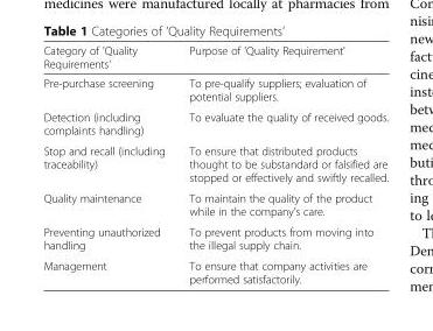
<table><thead><tr><td>Category of &#x27;Quality Requirements&#x27;</td><td>Purpose of &#x27;Quality Requirement&#x27;</td></tr></thead><tbody><tr><td>Pre-purchase screening</td><td>To pre-qualify suppliers; evaluation of potential suppliers.</td></tr><tr><td>Detection (including complaints handling)</td><td>To evaluate the quality of received goods.</td></tr><tr><td>Stop and recall (including traceability)</td><td>To ensure that distributed products thought to be substandard or falsified are stopped or effectively and swiftly recalled.</td></tr><tr><td>Quality maintenance</td><td>To maintain the quality of the product while in the company’s care.</td></tr><tr><td>Preventing unauthorized handling</td><td>To prevent products from moving into the illegal supply chain.</td></tr><tr><td>Management</td><td>To ensure that company activities are performed satisfactorily.</td></tr></tbody></table>